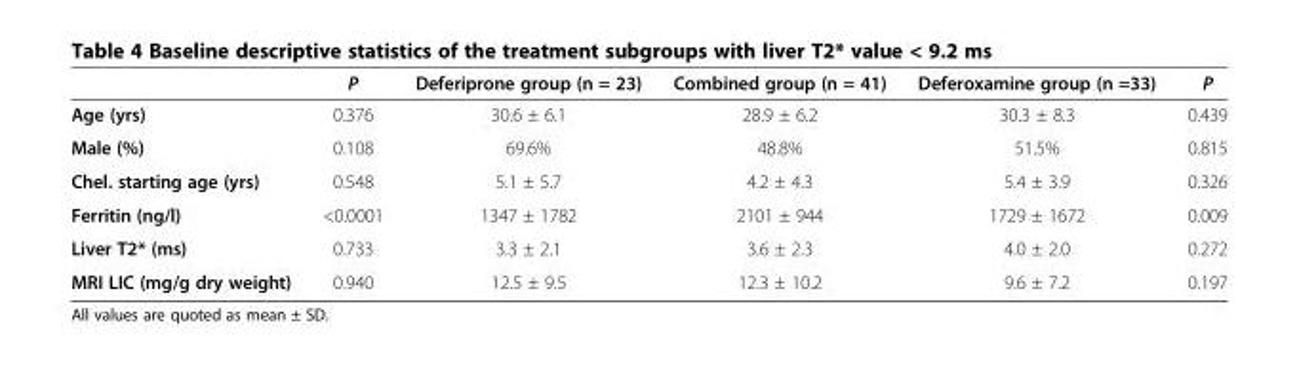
<table><thead><tr><td></td><td>P</td><td>Deferiprone group (n = 23)</td><td>Combined group (n = 41)</td><td>Deferoxamine group (n =33)</td><td>P</td></tr></thead><tbody><tr><td>Age (yrs)</td><td>0.376</td><td>30.6 ± 6.1</td><td>28.9 ± 6.2</td><td>30.3 ± 8.3</td><td>0.439</td></tr><tr><td>Male (%)</td><td>0.108</td><td>69.6%</td><td>48.8%</td><td>51.5%</td><td>0.815</td></tr><tr><td>Chel. starting age (yrs)</td><td>0.548</td><td>5.1 ± 5.7</td><td>4.2 ± 4.3</td><td>5.4 ± 3.9</td><td>0.326</td></tr><tr><td>Ferritin (ng/l)</td><td>&lt;0.0001</td><td>1347 ± 1782</td><td>2101 ± 944</td><td>1729 ± 1672</td><td>0.009</td></tr><tr><td>Liver T2* (ms)</td><td>0.733</td><td>3.3 ± 2.1</td><td>3.6 ± 2.3</td><td>4.0 ± 2.0</td><td>0.272</td></tr><tr><td>MRI LIC (mg/g dry weight)</td><td>0.940</td><td>12.5 ± 9.5</td><td>12.3 ± 10.2</td><td>9.6 ± 7.2</td><td>0.197</td></tr></tbody></table>